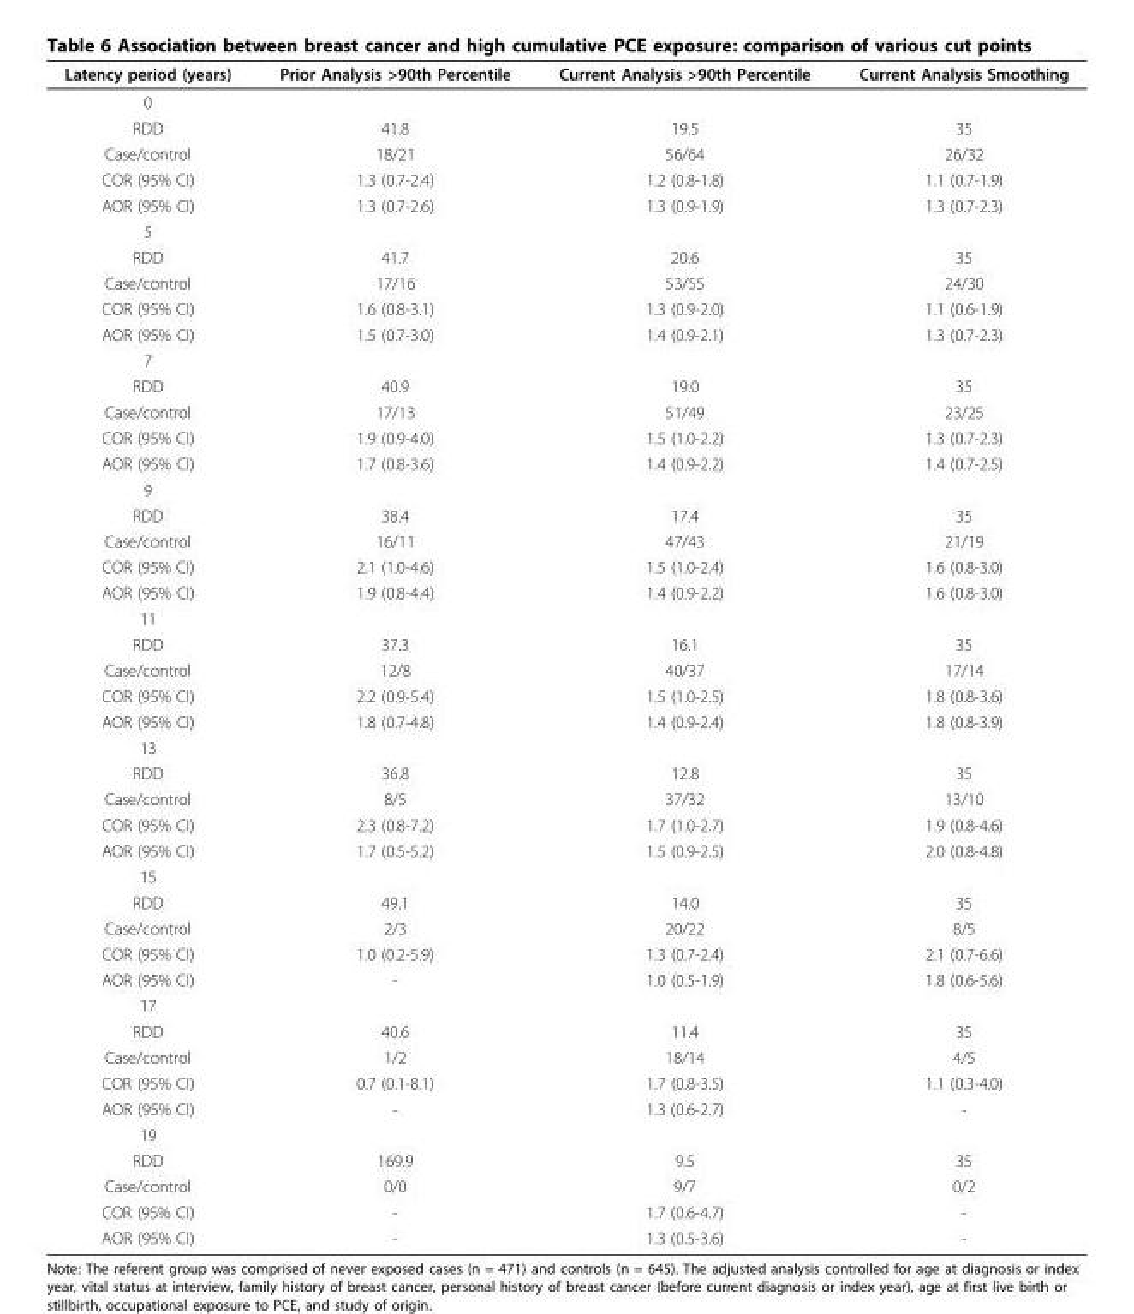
<table><thead><tr><td>Latency period (years)</td><td>Prior Analysis &gt;90th Percentile</td><td>Current Analysis &gt;90th Percentile</td><td>Current Analysis Smoothing</td></tr></thead><tbody><tr><td colspan="4">0</td></tr><tr><td>RDD</td><td>41.8</td><td>19.5</td><td>35</td></tr><tr><td>Case/control</td><td>18/21</td><td>56/64</td><td>26/32</td></tr><tr><td>COR (95% CI)</td><td>1.3 (0.7-2.4)</td><td>1.2 (0.8-1.8)</td><td>1.1 (0.7-1.9)</td></tr><tr><td>AOR (95% CI)</td><td>1.3 (0.7-2.6)</td><td>1.3 (0.9-1.9)</td><td>1.3 (0.7-2.3)</td></tr><tr><td colspan="4">5</td></tr><tr><td>RDD</td><td>41.7</td><td>20.6</td><td>35</td></tr><tr><td>Case/control</td><td>17/16</td><td>53/55</td><td>24/30</td></tr><tr><td>COR (95% CI)</td><td>1.6 (0.8-3.1)</td><td>1.3 (0.9-2.0)</td><td>1.1 (0.6-1.9)</td></tr><tr><td>AOR (95% CI)</td><td>1.5 (0.7-3.0)</td><td>1.4 (0.9-2.1)</td><td>1.3 (0.7-2.3)</td></tr><tr><td colspan="4">7</td></tr><tr><td>RDD</td><td>40.9</td><td>19.0</td><td>35</td></tr><tr><td>Case/control</td><td>17/13</td><td>51/49</td><td>23/25</td></tr><tr><td>COR (95% CI)</td><td>1.9 (0.9-4.0)</td><td>1.5 (1.0-2.2)</td><td>1.3 (0.7-2.3)</td></tr><tr><td>AOR (95% CI)</td><td>1.7 (0.8-3.6)</td><td>1.4 (0.9-2.2)</td><td>1.4 (0.7-2.5)</td></tr><tr><td colspan="4">9</td></tr><tr><td>RDD</td><td>38.4</td><td>17.4</td><td>35</td></tr><tr><td>Case/control</td><td>16/11</td><td>47/43</td><td>21/19</td></tr><tr><td>COR (95% CI)</td><td>2.1 (1.0-4.6)</td><td>1.5 (1.0-2.4)</td><td>1.6 (0.8-3.0)</td></tr><tr><td>AOR (95% CI)</td><td>1.9 (0.8-4.4)</td><td>1.4 (0.9-2.2)</td><td>1.6 (0.8-3.0)</td></tr><tr><td colspan="4">11</td></tr><tr><td>RDD</td><td>37.3</td><td>16.1</td><td>35</td></tr><tr><td>Case/control</td><td>12/8</td><td>40/37</td><td>17/14</td></tr><tr><td>COR (95% CI)</td><td>2.2 (0.9-5.4)</td><td>1.5 (1.0-2.5)</td><td>1.8 (0.8-3.6)</td></tr><tr><td>AOR (95% CI)</td><td>1.8 (0.7-4.8)</td><td>1.4 (0.9-2.4)</td><td>1.8 (0.8-3.9)</td></tr><tr><td colspan="4">13</td></tr><tr><td>RDD</td><td>36.8</td><td>12.8</td><td>35</td></tr><tr><td>Case/control</td><td>8/5</td><td>37/32</td><td>13/10</td></tr><tr><td>COR (95% CI)</td><td>2.3 (0.8-7.2)</td><td>1.7 (1.0-2.7)</td><td>1.9 (0.8-4.6)</td></tr><tr><td>AOR (95% CI)</td><td>1.7 (0.5-5.2)</td><td>1.5 (0.9-2.5)</td><td>2.0 (0.8-4.8)</td></tr><tr><td colspan="4">15</td></tr><tr><td>RDD</td><td>49.1</td><td>14.0</td><td>35</td></tr><tr><td>Case/control</td><td>2/3</td><td>20/22</td><td>8/5</td></tr><tr><td>COR (95% CI)</td><td>1.0 (0.2-5.9)</td><td>1.3 (0.7-2.4)</td><td>2.1 (0.7-6.6)</td></tr><tr><td>AOR (95% CI)</td><td>-</td><td>1.0 (0.5-1.9)</td><td>1.8 (0.6-5.6)</td></tr><tr><td colspan="4">17</td></tr><tr><td>RDD</td><td>40.6</td><td>11.4</td><td>35</td></tr><tr><td>Case/control</td><td>1/2</td><td>18/14</td><td>4/5</td></tr><tr><td>COR (95% CI)</td><td>0.7 (0.1-8.1)</td><td>1.7 (0.8-3.5)</td><td>1.1 (0.3-4.0)</td></tr><tr><td>AOR (95% CI)</td><td>-</td><td>1.3 (0.6-2.7)</td><td>-</td></tr><tr><td colspan="4">19</td></tr><tr><td>RDD</td><td>169.9</td><td>9.5</td><td>35</td></tr><tr><td>Case/control</td><td>0/0</td><td>9/7</td><td>0/2</td></tr><tr><td>COR (95% CI)</td><td>-</td><td>1.7 (0.6-4.7)</td><td>-</td></tr><tr><td>AOR (95% CI)</td><td>-</td><td>1.3 (0.5-3.6)</td><td>-</td></tr></tbody></table>